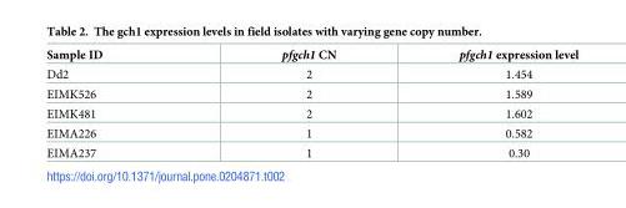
<table><thead><tr><td>Sample ID</td><td>pfgch1 CN</td><td>pfgch1 expression level</td></tr></thead><tbody><tr><td>Dd2</td><td>2</td><td>1.454</td></tr><tr><td>EIMK526</td><td>2</td><td>1.589</td></tr><tr><td>EIMK481</td><td>2</td><td>1.602</td></tr><tr><td>EIMA226</td><td>1</td><td>0.582</td></tr><tr><td>EIMA237</td><td>1</td><td>0.30</td></tr></tbody></table>